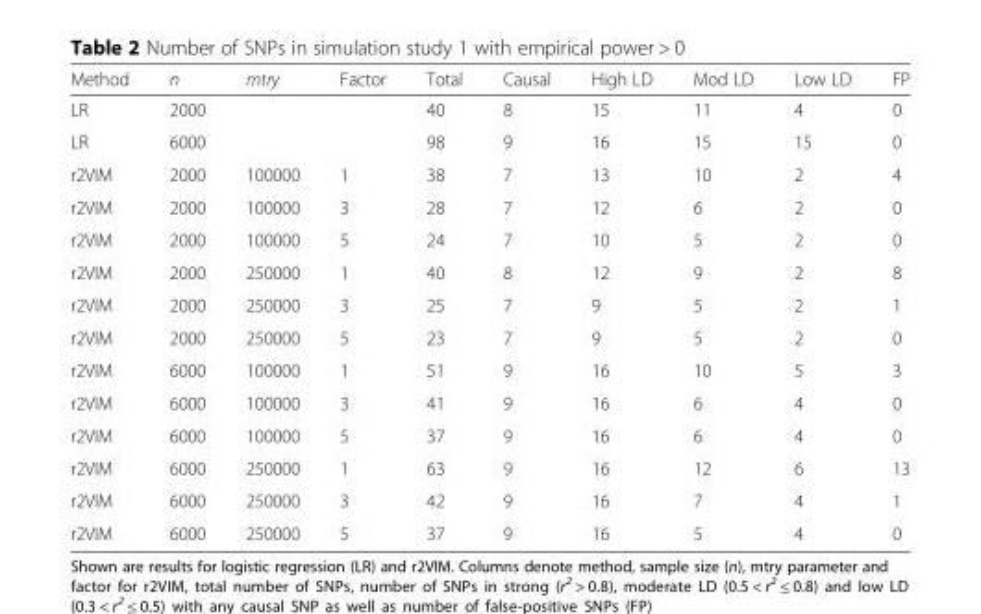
<table><thead><tr><td>Method</td><td>n</td><td>mtry</td><td>Factor</td><td>Total</td><td>Causal</td><td>High LD</td><td>Mod LD</td><td>Low LD</td><td>FP</td></tr></thead><tbody><tr><td>LR</td><td>2000</td><td></td><td></td><td>40</td><td>8</td><td>15</td><td>11</td><td>4</td><td>0</td></tr><tr><td>LR</td><td>6000</td><td></td><td></td><td>98</td><td>9</td><td>16</td><td>15</td><td>15</td><td>0</td></tr><tr><td>r2VIM</td><td>2000</td><td>100000</td><td>1</td><td>38</td><td>7</td><td>13</td><td>10</td><td>2</td><td>4</td></tr><tr><td>r2VIM</td><td>2000</td><td>100000</td><td>3</td><td>28</td><td>7</td><td>12</td><td>6</td><td>2</td><td>0</td></tr><tr><td>r2VIM</td><td>2000</td><td>100000</td><td>5</td><td>24</td><td>7</td><td>10</td><td>5</td><td>2</td><td>0</td></tr><tr><td>r2VIM</td><td>2000</td><td>250000</td><td>1</td><td>40</td><td>8</td><td>12</td><td>9</td><td>2</td><td>8</td></tr><tr><td>r2VIM</td><td>2000</td><td>250000</td><td>3</td><td>25</td><td>7</td><td>9</td><td>5</td><td>2</td><td>1</td></tr><tr><td>r2VIM</td><td>2000</td><td>250000</td><td>5</td><td>23</td><td>7</td><td>9</td><td>5</td><td>2</td><td>0</td></tr><tr><td>r2VIM</td><td>6000</td><td>100000</td><td>1</td><td>51</td><td>9</td><td>16</td><td>10</td><td>5</td><td>3</td></tr><tr><td>r2VIM</td><td>6000</td><td>100000</td><td>3</td><td>41</td><td>9</td><td>16</td><td>6</td><td>4</td><td>0</td></tr><tr><td>r2VIM</td><td>6000</td><td>100000</td><td>5</td><td>37</td><td>9</td><td>16</td><td>6</td><td>4</td><td>0</td></tr><tr><td>r2VIM</td><td>6000</td><td>250000</td><td>1</td><td>63</td><td>9</td><td>16</td><td>12</td><td>6</td><td>13</td></tr><tr><td>r2VIM</td><td>6000</td><td>250000</td><td>3</td><td>42</td><td>9</td><td>16</td><td>7</td><td>4</td><td>1</td></tr><tr><td>r2VIM</td><td>6000</td><td>250000</td><td>5</td><td>37</td><td>9</td><td>16</td><td>5</td><td>4</td><td>0</td></tr></tbody></table>